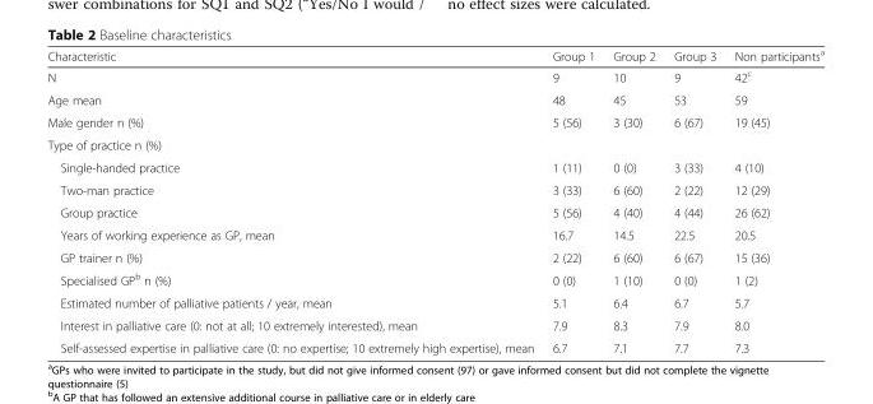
<table><thead><tr><td>Characteristic</td><td>Group 1</td><td>Group 2</td><td>Group 3</td><td>Non participants<sup>a</sup></td></tr></thead><tbody><tr><td>N</td><td>9</td><td>10</td><td>9</td><td>42<sup>c</sup></td></tr><tr><td>Age mean</td><td>48</td><td>45</td><td>53</td><td>59</td></tr><tr><td>Male gender n (%)</td><td>5 (56)</td><td>3 (30)</td><td>6 (67)</td><td>19 (45)</td></tr><tr><td colspan="5">Type of practice n (%)</td></tr><tr><td>Single-handed practice</td><td>1 (11)</td><td>0 (0)</td><td>3 (33)</td><td>4 (10)</td></tr><tr><td>Two-man practice</td><td>3 (33)</td><td>6 (60)</td><td>2 (22)</td><td>12 (29)</td></tr><tr><td>Group practice</td><td>5 (56)</td><td>4 (40)</td><td>4 (44)</td><td>26 (62)</td></tr><tr><td>Years of working experience as GP, mean</td><td>16.7</td><td>14.5</td><td>22.5</td><td>20.5</td></tr><tr><td>GP trainer n (%)</td><td>2 (22)</td><td>6 (60)</td><td>6 (67)</td><td>15 (36)</td></tr><tr><td>Specialised GP<sup>b</sup> n (%)</td><td>0 (0)</td><td>1 (10)</td><td>0 (0)</td><td>1 (2)</td></tr><tr><td>Estimated number of palliative patients / year, mean</td><td>5.1</td><td>6.4</td><td>6.7</td><td>5.7</td></tr><tr><td>Interest in palliative care (0: not at all; 10 extremely interested), mean</td><td>7.9</td><td>8.3</td><td>7.9</td><td>8.0</td></tr><tr><td>Self-assessed expertise in palliative care (0: no expertise; 10 extremely high expertise), mean</td><td>6.7</td><td>7.1</td><td>7.7</td><td>7.3</td></tr></tbody></table>